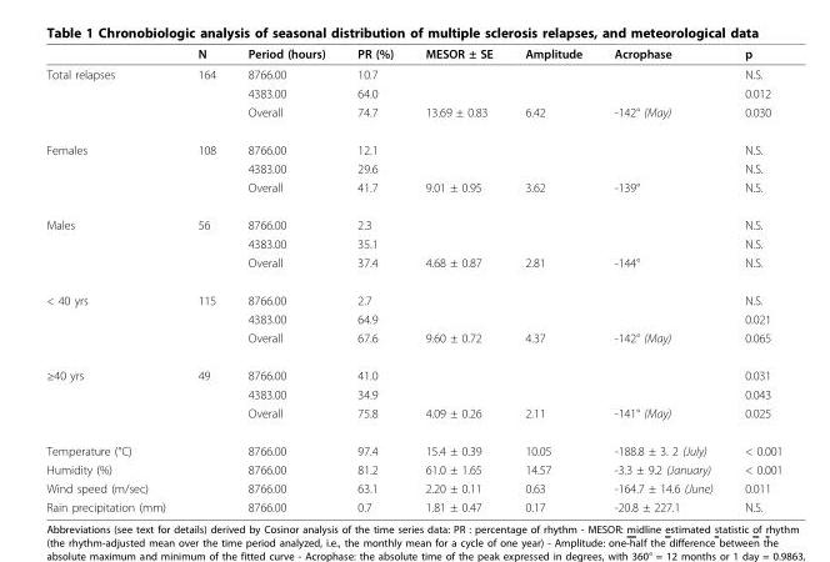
<table><thead><tr><td></td><td>N</td><td>Period (hours)</td><td>PR (%)</td><td>MESOR ± SE</td><td>Amplitude</td><td>Acrophase</td><td>p</td></tr></thead><tbody><tr><td rowspan="3">Total relapses</td><td>164</td><td>8766.00</td><td>10.7</td><td></td><td></td><td></td><td>N.S.</td></tr><tr><td></td><td>4383.00</td><td>64.0</td><td></td><td></td><td></td><td>0.012</td></tr><tr><td></td><td>Overall</td><td>74.7</td><td>13.69 ± 0.83</td><td>6.42</td><td>-142° (May)</td><td>0.030</td></tr><tr><td rowspan="3">Females</td><td>108</td><td>8766.00</td><td>12.1</td><td></td><td></td><td></td><td>N.S.</td></tr><tr><td></td><td>4383.00</td><td>29.6</td><td></td><td></td><td></td><td>N.S.</td></tr><tr><td></td><td>Overall</td><td>41.7</td><td>9.01 ± 0.95</td><td>3.62</td><td>-139°</td><td>N.S.</td></tr><tr><td rowspan="3">Males</td><td>56</td><td>8766.00</td><td>2.3</td><td></td><td></td><td></td><td>N.S.</td></tr><tr><td></td><td>4383.00</td><td>35.1</td><td></td><td></td><td></td><td>N.S.</td></tr><tr><td></td><td>Overall</td><td>37.4</td><td>4.68 ± 0.87</td><td>2.81</td><td>-144°</td><td>N.S.</td></tr><tr><td rowspan="3">&lt; 40 yrs</td><td>115</td><td>8766.00</td><td>2.7</td><td></td><td></td><td></td><td>N.S.</td></tr><tr><td></td><td>4383.00</td><td>64.9</td><td></td><td></td><td></td><td>0.021</td></tr><tr><td></td><td>Overall</td><td>67.6</td><td>9.60 ± 0.72</td><td>4.37</td><td>-142° (May)</td><td>0.065</td></tr><tr><td rowspan="3">≥40 yrs</td><td>49</td><td>8766.00</td><td>41.0</td><td></td><td></td><td></td><td>0.031</td></tr><tr><td></td><td>4383.00</td><td>34.9</td><td></td><td></td><td></td><td>0.043</td></tr><tr><td></td><td>Overall</td><td>75.8</td><td>4.09 ± 0.26</td><td>2.11</td><td>-141° (May)</td><td>0.025</td></tr><tr><td>Temperature (°C)</td><td></td><td>8766.00</td><td>97.4</td><td>15.4 ± 0.39</td><td>10.05</td><td>-188.8 ± 3. 2 (July)</td><td>&lt; 0.001</td></tr><tr><td>Humidity (%)</td><td></td><td>8766.00</td><td>81.2</td><td>61.0 ± 1.65</td><td>14.57</td><td>-3.3 ± 9.2 (January)</td><td>&lt; 0.001</td></tr><tr><td>Wind speed (m/sec)</td><td></td><td>8766.00</td><td>63.1</td><td>2.20 ± 0.11</td><td>0.63</td><td>-164.7 ± 14.6 (June)</td><td>0.011</td></tr><tr><td>Rain precipitation (mm)</td><td></td><td>8766.00</td><td>0.7</td><td>1.81 ± 0.47</td><td>0.17</td><td>-20.8 ± 227.1</td><td>N.S.</td></tr></tbody></table>